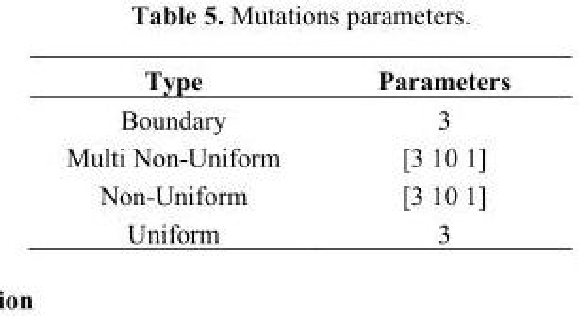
<table><thead><tr><td>Type</td><td>Parameters</td></tr></thead><tbody><tr><td>Boundary</td><td>3</td></tr><tr><td>Multi Non-Uniform</td><td>[3 10 1]</td></tr><tr><td>Non-Uniform</td><td>[3 10 1]</td></tr><tr><td>Uniform</td><td>3</td></tr></tbody></table>